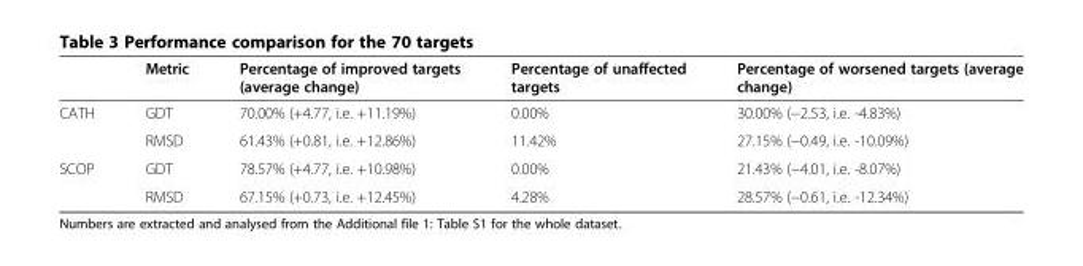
<table><thead><tr><td></td><td>Metric</td><td>Percentage of improved targets (average change)</td><td>Percentage of unaffected targets</td><td>Percentage of worsened targets (average change)</td></tr></thead><tbody><tr><td rowspan="2">CATH</td><td>GDT</td><td>70.00% (+4.77, i.e. +11.19%)</td><td>0.00%</td><td>30.00% (−2.53, i.e. -4.83%)</td></tr><tr><td>RMSD</td><td>61.43% (+0.81, i.e. +12.86%)</td><td>11.42%</td><td>27.15% (−0.49, i.e. -10.09%)</td></tr><tr><td rowspan="2">SCOP</td><td>GDT</td><td>78.57% (+4.77, i.e. +10.98%)</td><td>0.00%</td><td>21.43% (−4.01, i.e. -8.07%)</td></tr><tr><td>RMSD</td><td>67.15% (+0.73, i.e. +12.45%)</td><td>4.28%</td><td>28.57% (−0.61, i.e. -12.34%)</td></tr></tbody></table>